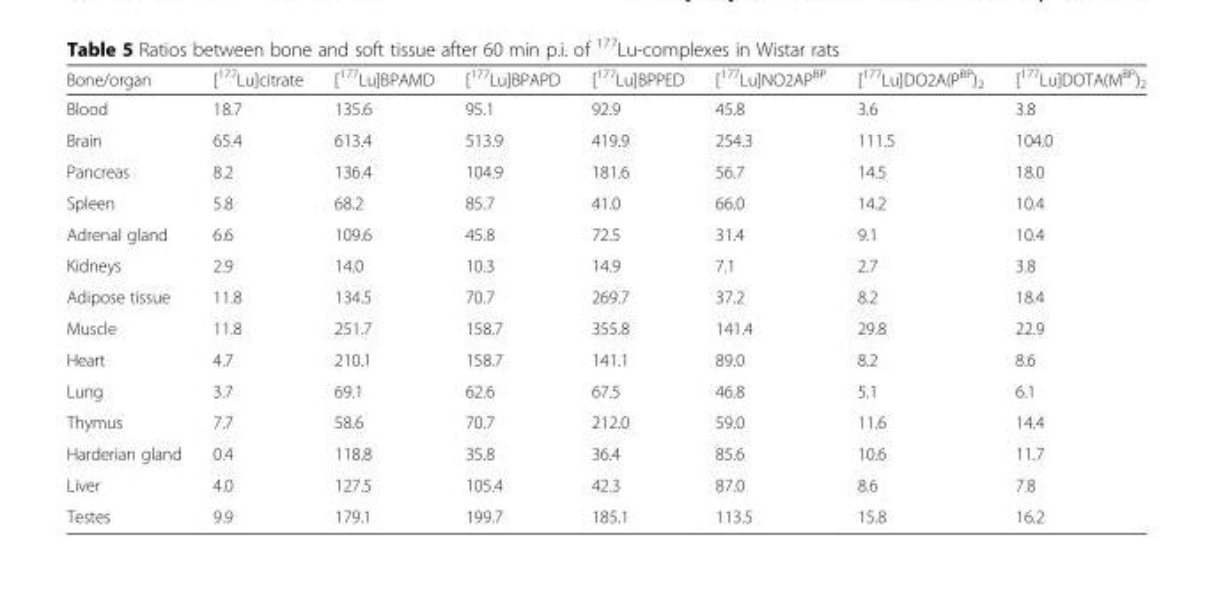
<table><thead><tr><td>Bone/organ</td><td>[<sup>177</sup>Lu]citrate</td><td>[<sup>177</sup>Lu]BPAMD</td><td>[<sup>177</sup>Lu]BPAPD</td><td>[<sup>177</sup>Lu]BPPED</td><td>[<sup>177</sup>Lu]NO2AP<sup>BP</sup></td><td>[<sup>177</sup>Lu]DO2A(P<sup>BP</sup>)<sub>2</sub></td><td>[<sup>177</sup>Lu]DOTA(M<sup>BP</sup>)<sub>2</sub></td></tr></thead><tbody><tr><td>Blood</td><td>18.7</td><td>135.6</td><td>95.1</td><td>92.9</td><td>45.8</td><td>3.6</td><td>3.8</td></tr><tr><td>Brain</td><td>65.4</td><td>613.4</td><td>513.9</td><td>419.9</td><td>254.3</td><td>111.5</td><td>104.0</td></tr><tr><td>Pancreas</td><td>8.2</td><td>136.4</td><td>104.9</td><td>181.6</td><td>56.7</td><td>14.5</td><td>18.0</td></tr><tr><td>Spleen</td><td>5.8</td><td>68.2</td><td>85.7</td><td>41.0</td><td>66.0</td><td>14.2</td><td>10.4</td></tr><tr><td>Adrenal gland</td><td>6.6</td><td>109.6</td><td>45.8</td><td>72.5</td><td>31.4</td><td>9.1</td><td>10.4</td></tr><tr><td>Kidneys</td><td>2.9</td><td>14.0</td><td>10.3</td><td>14.9</td><td>7.1</td><td>2.7</td><td>3.8</td></tr><tr><td>Adipose tissue</td><td>11.8</td><td>134.5</td><td>70.7</td><td>269.7</td><td>37.2</td><td>8.2</td><td>18.4</td></tr><tr><td>Muscle</td><td>11.8</td><td>251.7</td><td>158.7</td><td>355.8</td><td>141.4</td><td>29.8</td><td>22.9</td></tr><tr><td>Heart</td><td>4.7</td><td>210.1</td><td>158.7</td><td>141.1</td><td>89.0</td><td>8.2</td><td>8.6</td></tr><tr><td>Lung</td><td>3.7</td><td>69.1</td><td>62.6</td><td>67.5</td><td>46.8</td><td>5.1</td><td>6.1</td></tr><tr><td>Thymus</td><td>7.7</td><td>58.6</td><td>70.7</td><td>212.0</td><td>59.0</td><td>11.6</td><td>14.4</td></tr><tr><td>Harderian gland</td><td>0.4</td><td>118.8</td><td>35.8</td><td>36.4</td><td>85.6</td><td>10.6</td><td>11.7</td></tr><tr><td>Liver</td><td>4.0</td><td>127.5</td><td>105.4</td><td>42.3</td><td>87.0</td><td>8.6</td><td>7.8</td></tr><tr><td>Testes</td><td>9.9</td><td>179.1</td><td>199.7</td><td>185.1</td><td>113.5</td><td>15.8</td><td>16.2</td></tr></tbody></table>